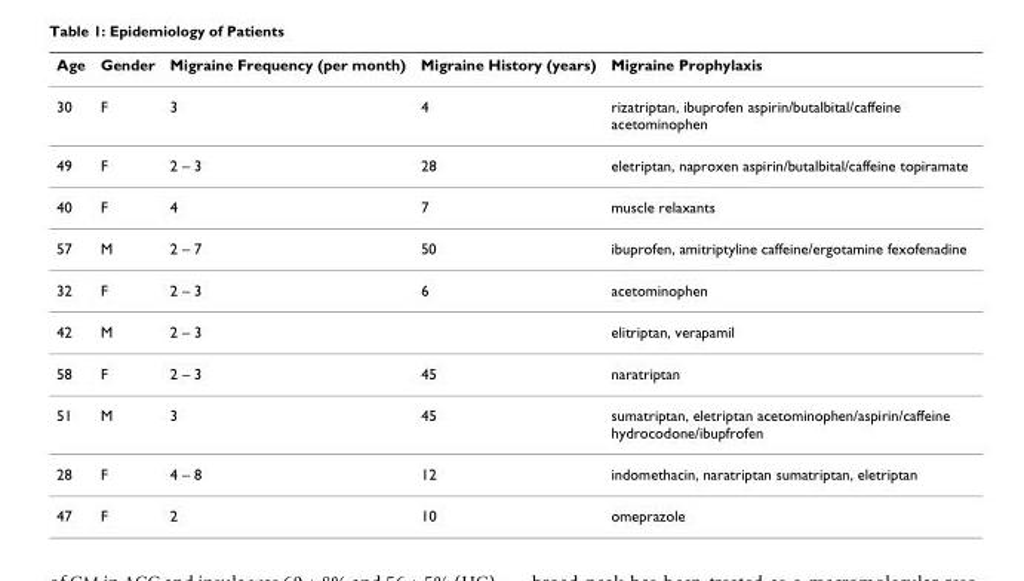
<table><thead><tr><td>Age</td><td>Gender</td><td>Migraine Frequency (per month)</td><td>Migraine History (years)</td><td>Migraine Prophylaxis</td></tr></thead><tbody><tr><td>30</td><td>F</td><td>3</td><td>4</td><td>rizatriptan, ibuprofen aspirin/butalbital/caffeine acetominophen</td></tr><tr><td>49</td><td>F</td><td>2 – 3</td><td>28</td><td>eletriptan, naproxen aspirin/butalbital/caffeine topiramate</td></tr><tr><td>40</td><td>F</td><td>4</td><td>7</td><td>muscle relaxants</td></tr><tr><td>57</td><td>M</td><td>2 – 7</td><td>50</td><td>ibuprofen, amitriptyline caffeine/ergotamine fexofenadine</td></tr><tr><td>32</td><td>F</td><td>2 – 3</td><td>6</td><td>acetominophen</td></tr><tr><td>42</td><td>M</td><td>2 – 3</td><td></td><td>elitriptan, verapamil</td></tr><tr><td>58</td><td>F</td><td>2 – 3</td><td>45</td><td>naratriptan</td></tr><tr><td>51</td><td>M</td><td>3</td><td>45</td><td>sumatriptan, eletriptan acetominophen/aspirin/caffeine hydrocodone/ibupfrofen</td></tr><tr><td>28</td><td>F</td><td>4 – 8</td><td>12</td><td>indomethacin, naratriptan sumatriptan, eletriptan</td></tr><tr><td>47</td><td>F</td><td>2</td><td>10</td><td>omeprazole</td></tr></tbody></table>